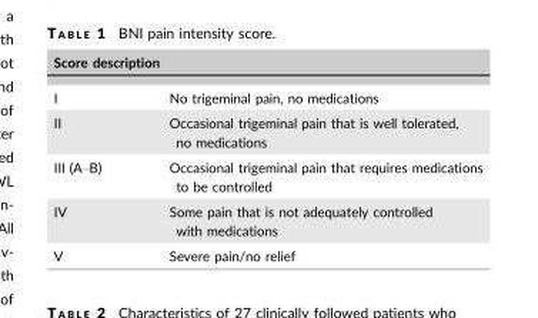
<table><thead><tr><td colspan="2">Score description</td></tr><tr><td>I</td><td>No trigeminal pain, no medications</td></tr></thead><tbody><tr><td>II</td><td>Occasional trigeminal pain that is well tolerated, no medications</td></tr><tr><td>III (A–B)</td><td>Occasional trigeminal pain that requires medications to be controlled</td></tr><tr><td>IV</td><td>Some pain that is not adequately controlled with medications</td></tr><tr><td>V</td><td>Severe pain/no relief</td></tr></tbody></table>